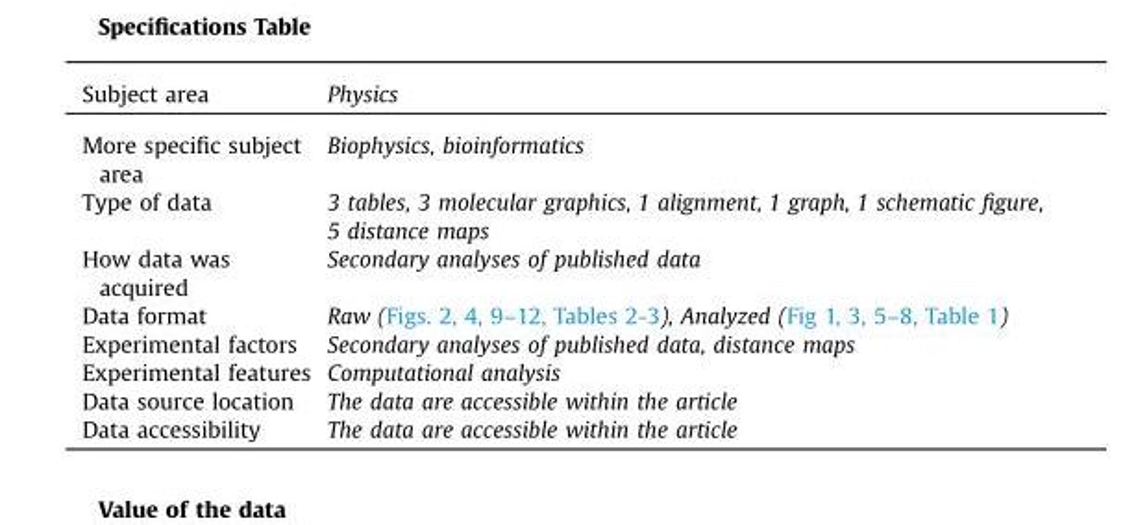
<table><thead><tr><td>Subject area</td><td>Physics</td></tr></thead><tbody><tr><td>More specific subject area</td><td>Biophysics, bioinformatics</td></tr><tr><td>Type of data</td><td>3 tables, 3 molecular graphics, 1 alignment, 1 graph, 1 schematic figure, 5 distance maps</td></tr><tr><td>How data was acquired</td><td>Secondary analyses of published data</td></tr><tr><td>Data format</td><td>Raw (Figs. 2, 4, 9–12, Tables 2-3), Analyzed (Fig 1, 3, 5–8, Table 1)</td></tr><tr><td>Experimental factors</td><td>Secondary analyses of published data, distance maps</td></tr><tr><td>Experimental features</td><td>Computational analysis</td></tr><tr><td>Data source location</td><td>The data are accessible within the article</td></tr><tr><td>Data accessibility</td><td>The data are accessible within the article</td></tr></tbody></table>